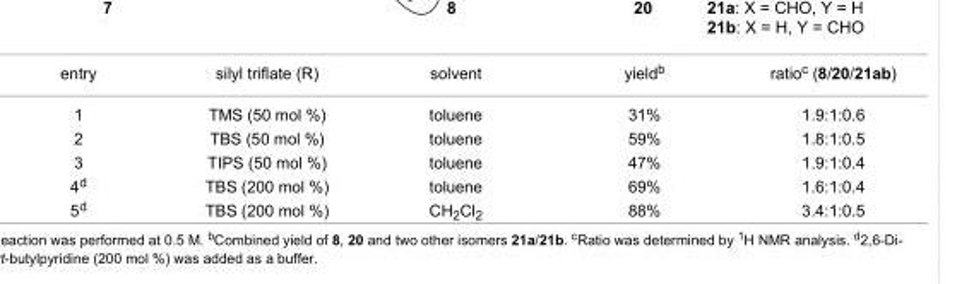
<table><tbody><tr><td>entry</td><td>silyl triflate (R)</td><td>solvent</td><td>yield<sup>b</sup></td><td>ratio<sup>c</sup> (8/20/21ab)</td></tr><tr><td>1</td><td>TMS (50 mol %)</td><td>toluene</td><td>31%</td><td>1.9:1:0.6</td></tr><tr><td>2</td><td>TBS (50 mol %)</td><td>toluene</td><td>59%</td><td>1.8:1:0.5</td></tr><tr><td>3</td><td>TIPS (50 mol %)</td><td>toluene</td><td>47%</td><td>1.9:1:0.4</td></tr><tr><td>4<sup>d</sup></td><td>TBS (200 mol %)</td><td>toluene</td><td>69%</td><td>1.6:1:0.4</td></tr><tr><td>5<sup>d</sup></td><td>TBS (200 mol %)</td><td>CH<sub>2</sub>Cl<sub>2</sub></td><td>88%</td><td>3.4:1:0.5</td></tr></tbody></table>